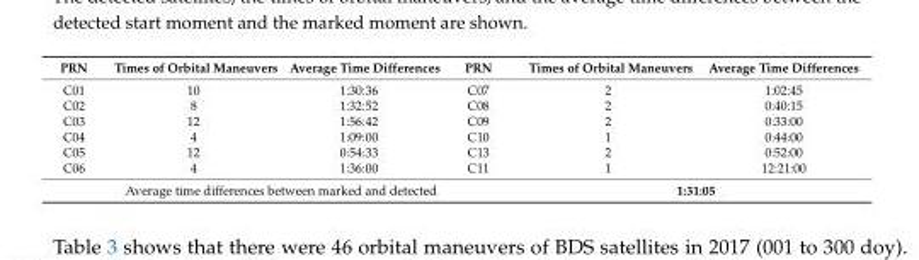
<table><thead><tr><td>PRN</td><td>Times of Orbital Maneuvers</td><td>Average Time Differences</td><td>PRN</td><td>Times of Orbital Maneuvers</td><td>Average Time Differences</td></tr></thead><tbody><tr><td>C01</td><td>10</td><td>1:30:36</td><td>C07</td><td>2</td><td>1:02:45</td></tr><tr><td>C02</td><td>8</td><td>1:32:52</td><td>C08</td><td>2</td><td>0:40:15</td></tr><tr><td>C03</td><td>12</td><td>1:56:42</td><td>C09</td><td>2</td><td>0:33:00</td></tr><tr><td>C04</td><td>4</td><td>1:09:00</td><td>C10</td><td>1</td><td>0:44:00</td></tr><tr><td>C05</td><td>12</td><td>0:54:33</td><td>C13</td><td>2</td><td>0:52:00</td></tr><tr><td>C06</td><td>4</td><td>1:36:00</td><td>C11</td><td>1</td><td>12:21:00</td></tr><tr><td colspan="4">Average time differences between marked and detected</td><td colspan="2">1:31:05</td></tr></tbody></table>